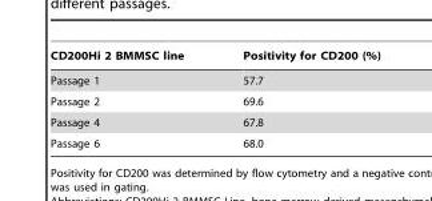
<table><thead><tr><td>CD200Hi 2 BMMSC line</td><td>Positivity for CD200 (%)</td></tr></thead><tbody><tr><td>Passage 1</td><td>57.7</td></tr><tr><td>Passage 2</td><td>69.6</td></tr><tr><td>Passage 4</td><td>67.8</td></tr><tr><td>Passage 6</td><td>68.0</td></tr></tbody></table>